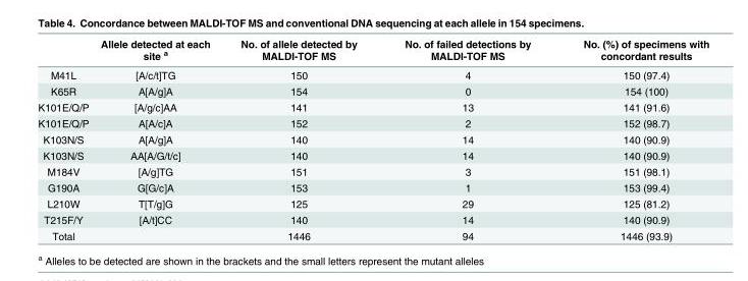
<table><thead><tr><td></td><td>Allele detected at each site <sup>a</sup></td><td>No. of allele detected by MALDI-TOF MS</td><td>No. of failed detections by MALDI-TOF MS</td><td>No. (%) of specimens with concordant results</td></tr></thead><tbody><tr><td>M41L</td><td>[A/c/t]TG</td><td>150</td><td>4</td><td>150 (97.4)</td></tr><tr><td>K65R</td><td>A[A/g]A</td><td>154</td><td>0</td><td>154 (100)</td></tr><tr><td>K101E/Q/P</td><td>[A/g/c]AA</td><td>141</td><td>13</td><td>141 (91.6)</td></tr><tr><td>K101E/Q/P</td><td>A[A/c]A</td><td>152</td><td>2</td><td>152 (98.7)</td></tr><tr><td>K103N/S</td><td>A[A/g]A</td><td>140</td><td>14</td><td>140 (90.9)</td></tr><tr><td>K103N/S</td><td>AA[A/G/t/c]</td><td>140</td><td>14</td><td>140 (90.9)</td></tr><tr><td>M184V</td><td>[A/g]TG</td><td>151</td><td>3</td><td>151 (98.1)</td></tr><tr><td>G190A</td><td>G[G/c]A</td><td>153</td><td>1</td><td>153 (99.4)</td></tr><tr><td>L210W</td><td>T[T/g]G</td><td>125</td><td>29</td><td>125 (81.2)</td></tr><tr><td>T215F/Y</td><td>[A/t]CC</td><td>140</td><td>14</td><td>140 (90.9)</td></tr><tr><td>Total</td><td></td><td>1446</td><td>94</td><td>1446 (93.9)</td></tr></tbody></table>